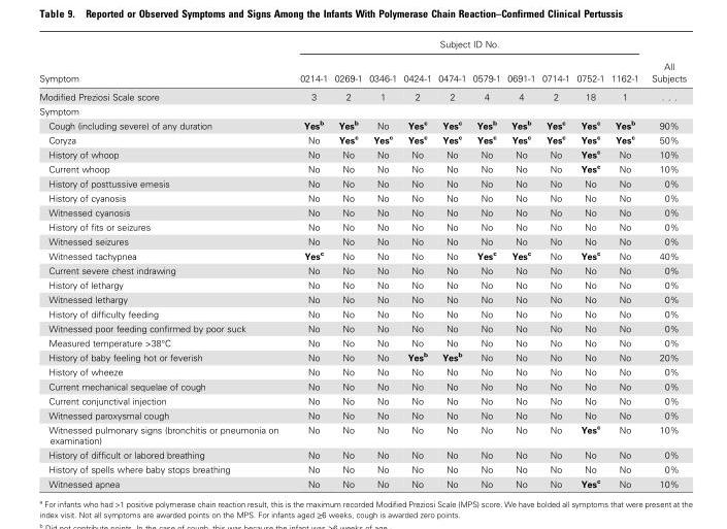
<table><thead><tr><td rowspan="2">Symptom</td><td colspan="10">Subject ID No.</td><td rowspan="2">All Subjects</td></tr><tr><td>0214-1</td><td>0269-1</td><td>0346-1</td><td>0424-1</td><td>0474-1</td><td>0579-1</td><td>0691-1</td><td>0714-1</td><td>0752-1</td><td>1162-1</td></tr></thead><tbody><tr><td>Modified Preziosi Scale score</td><td>3</td><td>2</td><td>1</td><td>2</td><td>2</td><td>4</td><td>4</td><td>2</td><td>18</td><td>1</td><td>. . .</td></tr><tr><td colspan="12">Symptom</td></tr><tr><td>Cough (including severe) of any duration</td><td>Yes<sup>b</sup></td><td>Yes<sup>b</sup></td><td>No</td><td>Yes<sup>c</sup></td><td>Yes<sup>c</sup></td><td>Yes<sup>b</sup></td><td>Yes<sup>b</sup></td><td>Yes<sup>c</sup></td><td>Yes<sup>c</sup></td><td>Yes<sup>b</sup></td><td>90%</td></tr><tr><td>Coryza</td><td>No</td><td>Yes<sup>c</sup></td><td>Yes<sup>c</sup></td><td>Yes<sup>c</sup></td><td>Yes<sup>c</sup></td><td>Yes<sup>c</sup></td><td>Yes<sup>c</sup></td><td>Yes<sup>c</sup></td><td>Yes<sup>c</sup></td><td>Yes<sup>c</sup></td><td>50%</td></tr><tr><td>History of whoop</td><td>No</td><td>No</td><td>No</td><td>No</td><td>No</td><td>No</td><td>No</td><td>No</td><td>Yes<sup>c</sup></td><td>No</td><td>10%</td></tr><tr><td>Current whoop</td><td>No</td><td>No</td><td>No</td><td>No</td><td>No</td><td>No</td><td>No</td><td>No</td><td>Yes<sup>c</sup></td><td>No</td><td>10%</td></tr><tr><td>History of posttussive emesis</td><td>No</td><td>No</td><td>No</td><td>No</td><td>No</td><td>No</td><td>No</td><td>No</td><td>No</td><td>No</td><td>0%</td></tr><tr><td>History of cyanosis</td><td>No</td><td>No</td><td>No</td><td>No</td><td>No</td><td>No</td><td>No</td><td>No</td><td>No</td><td>No</td><td>0%</td></tr><tr><td>Witnessed cyanosis</td><td>No</td><td>No</td><td>No</td><td>No</td><td>No</td><td>No</td><td>No</td><td>No</td><td>No</td><td>No</td><td>0%</td></tr><tr><td>History of fits or seizures</td><td>No</td><td>No</td><td>No</td><td>No</td><td>No</td><td>No</td><td>No</td><td>No</td><td>No</td><td>No</td><td>0%</td></tr><tr><td>Witnessed seizures</td><td>No</td><td>No</td><td>No</td><td>No</td><td>No</td><td>No</td><td>No</td><td>No</td><td>No</td><td>No</td><td>0%</td></tr><tr><td>Witnessed tachypnea</td><td>Yes<sup>c</sup></td><td>No</td><td>No</td><td>No</td><td>No</td><td>Yes<sup>c</sup></td><td>Yes<sup>c</sup></td><td>No</td><td>Yes<sup>c</sup></td><td>No</td><td>40%</td></tr><tr><td>Current severe chest indrawing</td><td>No</td><td>No</td><td>No</td><td>No</td><td>No</td><td>No</td><td>No</td><td>No</td><td>No</td><td>No</td><td>0%</td></tr><tr><td>History of lethargy</td><td>No</td><td>No</td><td>No</td><td>No</td><td>No</td><td>No</td><td>No</td><td>No</td><td>No</td><td>No</td><td>0%</td></tr><tr><td>Witnessed lethargy</td><td>No</td><td>No</td><td>No</td><td>No</td><td>No</td><td>No</td><td>No</td><td>No</td><td>No</td><td>No</td><td>0%</td></tr><tr><td>History of difficulty feeding</td><td>No</td><td>No</td><td>No</td><td>No</td><td>No</td><td>No</td><td>No</td><td>No</td><td>No</td><td>No</td><td>0%</td></tr><tr><td>Witnessed poor feeding confirmed by poor suck</td><td>No</td><td>No</td><td>No</td><td>No</td><td>No</td><td>No</td><td>No</td><td>No</td><td>No</td><td>No</td><td>0%</td></tr><tr><td>Measured temperature &gt;38°C</td><td>No</td><td>No</td><td>No</td><td>No</td><td>No</td><td>No</td><td>No</td><td>No</td><td>No</td><td>No</td><td>0%</td></tr><tr><td>History of baby feeling hot or feverish</td><td>No</td><td>No</td><td>No</td><td>Yes<sup>b</sup></td><td>Yes<sup>b</sup></td><td>No</td><td>No</td><td>No</td><td>No</td><td>No</td><td>20%</td></tr><tr><td>History of wheeze</td><td>No</td><td>No</td><td>No</td><td>No</td><td>No</td><td>No</td><td>No</td><td>No</td><td>No</td><td>No</td><td>0%</td></tr><tr><td>Current mechanical sequelae of cough</td><td>No</td><td>No</td><td>No</td><td>No</td><td>No</td><td>No</td><td>No</td><td>No</td><td>No</td><td>No</td><td>0%</td></tr><tr><td>Current conjunctival injection</td><td>No</td><td>No</td><td>No</td><td>No</td><td>No</td><td>No</td><td>No</td><td>No</td><td>No</td><td>No</td><td>0%</td></tr><tr><td>Witnessed paroxysmal cough</td><td>No</td><td>No</td><td>No</td><td>No</td><td>No</td><td>No</td><td>No</td><td>No</td><td>No</td><td>No</td><td>0%</td></tr><tr><td>Witnessed pulmonary signs (bronchitis or pneumonia on examination)</td><td>No</td><td>No</td><td>No</td><td>No</td><td>No</td><td>No</td><td>No</td><td>No</td><td>Yes<sup>c</sup></td><td>No</td><td>10%</td></tr><tr><td>History of difficult or labored breathing</td><td>No</td><td>No</td><td>No</td><td>No</td><td>No</td><td>No</td><td>No</td><td>No</td><td>No</td><td>No</td><td>0%</td></tr><tr><td>History of spells where baby stops breathing</td><td>No</td><td>No</td><td>No</td><td>No</td><td>No</td><td>No</td><td>No</td><td>No</td><td>No</td><td>No</td><td>0%</td></tr><tr><td>Witnessed apnea</td><td>No</td><td>No</td><td>No</td><td>No</td><td>No</td><td>No</td><td>No</td><td>No</td><td>Yes<sup>c</sup></td><td>No</td><td>10%</td></tr></tbody></table>